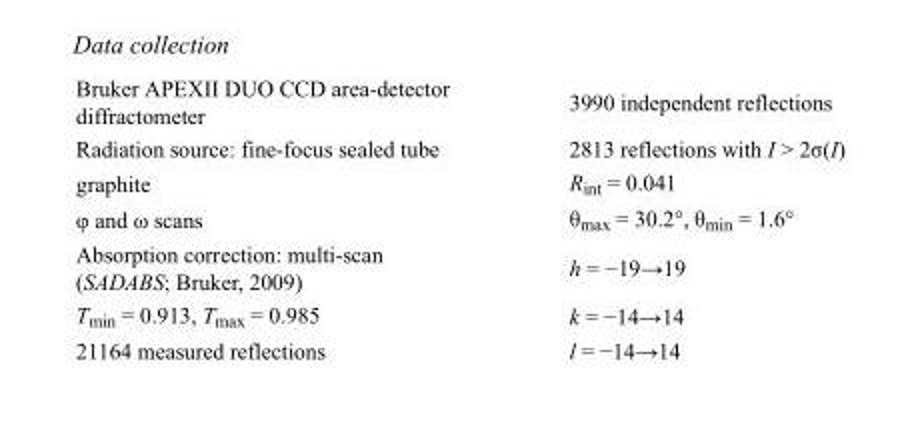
<table><tbody><tr><td>Bruker APEXII DUO CCD area-detector diffractometer</td><td>3990 independent reflections</td></tr><tr><td>Radiation source: fine-focus sealed tube</td><td>2813 reflections with I &gt; 2σ(I)</td></tr><tr><td>graphite</td><td>R<sub>int</sub> = 0.041</td></tr><tr><td>φ and ω scans</td><td>θ<sub>max</sub> = 30.2°, θ<sub>min</sub> = 1.6°</td></tr><tr><td>Absorption correction: multi-scan (SADABS; Bruker, 2009)</td><td>h = −19→19</td></tr><tr><td>T<sub>min</sub> = 0.913, T<sub>max</sub> = 0.985</td><td>k = −14→14</td></tr><tr><td>21164 measured reflections</td><td>l = −14→14</td></tr></tbody></table>